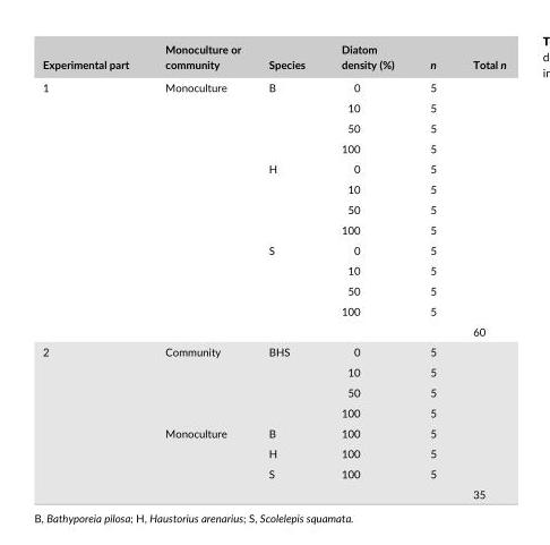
<table><thead><tr><td>Experimental part</td><td>Monoculture or community</td><td>Species</td><td>Diatom density (%)</td><td>n</td><td>Total n</td></tr></thead><tbody><tr><td rowspan="13">1</td><td rowspan="12">Monoculture</td><td rowspan="4">B</td><td>0</td><td>5</td><td></td></tr><tr><td>10</td><td>5</td><td></td></tr><tr><td>50</td><td>5</td><td></td></tr><tr><td>100</td><td>5</td><td></td></tr><tr><td rowspan="4">H</td><td>0</td><td>5</td><td></td></tr><tr><td>10</td><td>5</td><td></td></tr><tr><td>50</td><td>5</td><td></td></tr><tr><td>100</td><td>5</td><td></td></tr><tr><td rowspan="4">S</td><td>0</td><td>5</td><td></td></tr><tr><td>10</td><td>5</td><td></td></tr><tr><td>50</td><td>5</td><td></td></tr><tr><td>100</td><td>5</td><td></td></tr><tr><td></td><td></td><td></td><td></td><td>60</td></tr><tr><td rowspan="8">2</td><td rowspan="4">Community</td><td rowspan="4">BHS</td><td>0</td><td>5</td><td></td></tr><tr><td>10</td><td>5</td><td></td></tr><tr><td>50</td><td>5</td><td></td></tr><tr><td>100</td><td>5</td><td></td></tr><tr><td rowspan="3">Monoculture</td><td>B</td><td>100</td><td>5</td><td></td></tr><tr><td>H</td><td>100</td><td>5</td><td></td></tr><tr><td>S</td><td>100</td><td>5</td><td></td></tr><tr><td></td><td></td><td></td><td></td><td>35</td></tr></tbody></table>